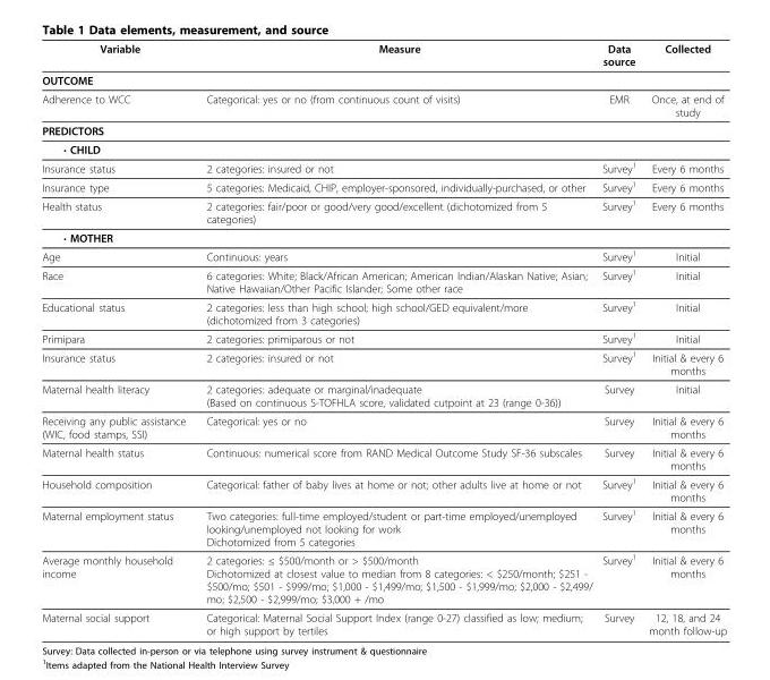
<table><thead><tr><td>Variable</td><td>Measure</td><td>Data source</td><td>Collected</td></tr></thead><tbody><tr><td colspan="4">OUTCOME</td></tr><tr><td>Adherence to WCC</td><td>Categorical: yes or no (from continuous count of visits)</td><td>EMR</td><td>Once, at end of study</td></tr><tr><td colspan="4">PREDICTORS</td></tr><tr><td colspan="4">• CHILD</td></tr><tr><td>Insurance status</td><td>2 categories: insured or not</td><td>Survey<sup>1</sup></td><td>Every 6 months</td></tr><tr><td>Insurance type</td><td>5 categories: Medicaid, CHIP, employer-sponsored, individually-purchased, or other</td><td>Survey<sup>1</sup></td><td>Every 6 months</td></tr><tr><td>Health status</td><td>2 categories: fair/poor or good/very good/excellent (dichotomized from 5 categories)</td><td>Survey<sup>1</sup></td><td>Every 6 months</td></tr><tr><td colspan="4">• MOTHER</td></tr><tr><td>Age</td><td>Continuous: years</td><td>Survey<sup>1</sup></td><td>Initial</td></tr><tr><td>Race</td><td>6 categories: White; Black/African American; American Indian/Alaskan Native; Asian; Native Hawaiian/Other Pacific Islander; Some other race</td><td>Survey<sup>1</sup></td><td>Initial</td></tr><tr><td>Educational status</td><td>2 categories: less than high school; high school/GED equivalent/more (dichotomized from 3 categories)</td><td>Survey<sup>1</sup></td><td>Initial</td></tr><tr><td>Primipara</td><td>2 categories: primiparous or not</td><td>Survey<sup>1</sup></td><td>Initial</td></tr><tr><td>Insurance status</td><td>2 categories: insured or not</td><td>Survey<sup>1</sup></td><td>Initial &amp; every 6 months</td></tr><tr><td>Maternal health literacy</td><td>2 categories: adequate or marginal/inadequate (Based on continuous S-TOFHLA score, validated cutpoint at 23 (range 0-36))</td><td>Survey</td><td>Initial</td></tr><tr><td>Receiving any public assistance (WIC, food stamps, SSI)</td><td>Categorical: yes or no</td><td>Survey</td><td>Initial &amp; every 6 months</td></tr><tr><td>Maternal health status</td><td>Continuous: numerical score from RAND Medical Outcome Study SF-36 subscales</td><td>Survey</td><td>Initial &amp; every 6 months</td></tr><tr><td>Household composition</td><td>Categorical: father of baby lives at home or not; other adults live at home or not</td><td>Survey<sup>1</sup></td><td>Initial &amp; every 6 months</td></tr><tr><td>Maternal employment status</td><td>Two categories: full-time employed/student or part-time employed/unemployed looking/unemployed not looking for work Dichotomized from 5 categories</td><td>Survey<sup>1</sup></td><td>Initial &amp; every 6 months</td></tr><tr><td>Average monthly household income</td><td>2 categories: ≤ $500/month or &gt; $500/month Dichotomized at closest value to median from 8 categories: &lt; $250/month; $251 - $500/mo; $501 - $999/mo; $1,000 - $1,499/mo; $1,500 - $1,999/mo; $2,000 - $2,499/ mo; $2,500 - $2,999/mo; $3,000 + /mo</td><td>Survey<sup>1</sup></td><td>Initial &amp; every 6 months</td></tr><tr><td>Maternal social support</td><td>Categorical: Maternal Social Support Index (range 0-27) classified as low; medium; or high support by tertiles</td><td>Survey</td><td>12, 18, and 24 month follow-up</td></tr></tbody></table>